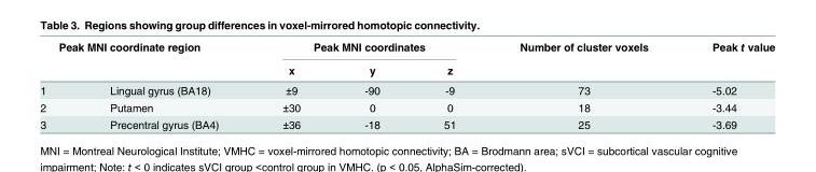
<table><thead><tr><td colspan="2">Peak MNI coordinate region</td><td colspan="3">Peak MNI coordinates</td><td rowspan="2">Number of cluster voxels</td><td rowspan="2">Peak t value</td></tr><tr><td></td><td></td><td>x</td><td>y</td><td>z</td></tr></thead><tbody><tr><td>1</td><td>Lingual gyrus (BA18)</td><td>±9</td><td>-90</td><td>-9</td><td>73</td><td>-5.02</td></tr><tr><td>2</td><td>Putamen</td><td>±30</td><td>0</td><td>0</td><td>18</td><td>-3.44</td></tr><tr><td>3</td><td>Precentral gyrus (BA4)</td><td>±36</td><td>-18</td><td>51</td><td>25</td><td>-3.69</td></tr></tbody></table>